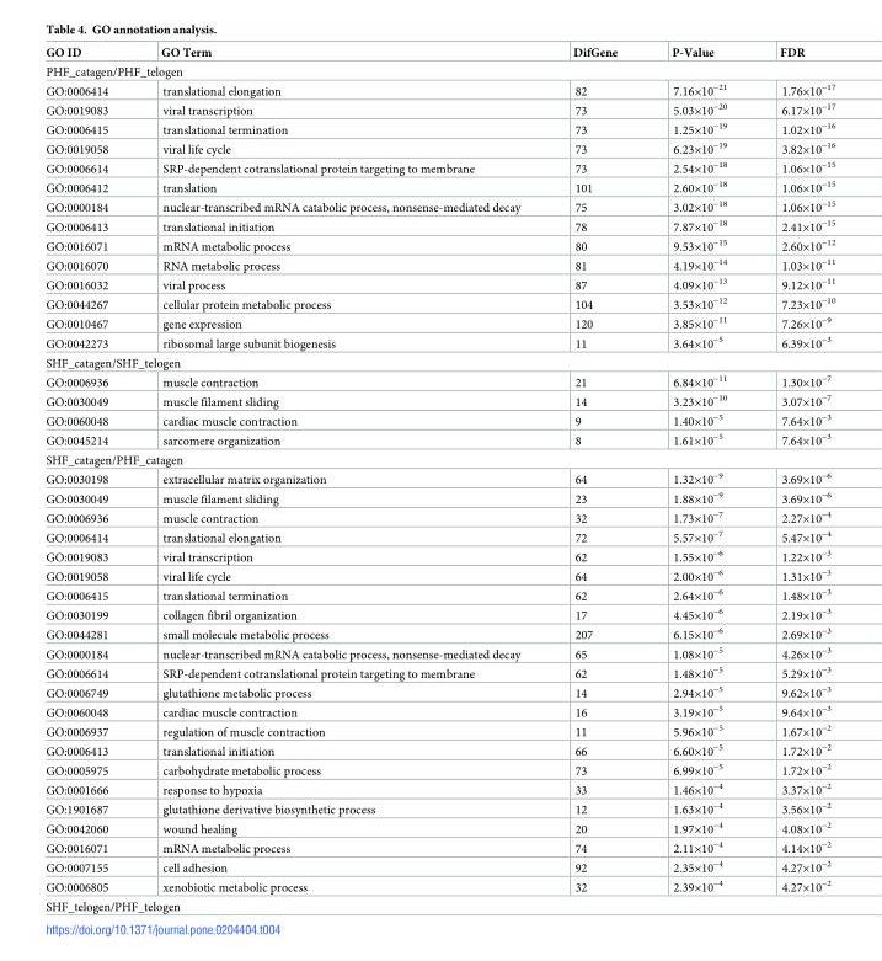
<table><thead><tr><td>GO ID</td><td>GO Term</td><td>DifGene</td><td>P-Value</td><td>FDR</td></tr></thead><tbody><tr><td colspan="5">PHF_catagen/PHF_telogen</td></tr><tr><td>GO:0006414</td><td>translational elongation</td><td>82</td><td>7.16×10<sup>−21</sup></td><td>1.76×10<sup>−17</sup></td></tr><tr><td>GO:0019083</td><td>viral transcription</td><td>73</td><td>5.03×10<sup>−20</sup></td><td>6.17×10<sup>−17</sup></td></tr><tr><td>GO:0006415</td><td>translational termination</td><td>73</td><td>1.25×10<sup>−19</sup></td><td>1.02×10<sup>−16</sup></td></tr><tr><td>GO:0019058</td><td>viral life cycle</td><td>73</td><td>6.23×10<sup>−19</sup></td><td>3.82×10<sup>−16</sup></td></tr><tr><td>GO:0006614</td><td>SRP-dependent cotranslational protein targeting to membrane</td><td>73</td><td>2.54×10<sup>−18</sup></td><td>1.06×10<sup>−15</sup></td></tr><tr><td>GO:0006412</td><td>translation</td><td>101</td><td>2.60×10<sup>−18</sup></td><td>1.06×10<sup>−15</sup></td></tr><tr><td>GO:0000184</td><td>nuclear-transcribed mRNA catabolic process, nonsense-mediated decay</td><td>75</td><td>3.02×10<sup>−18</sup></td><td>1.06×10<sup>−15</sup></td></tr><tr><td>GO:0006413</td><td>translational initiation</td><td>78</td><td>7.87×10<sup>−18</sup></td><td>2.41×10<sup>−15</sup></td></tr><tr><td>GO:0016071</td><td>mRNA metabolic process</td><td>80</td><td>9.53×10<sup>−15</sup></td><td>2.60×10<sup>−12</sup></td></tr><tr><td>GO:0016070</td><td>RNA metabolic process</td><td>81</td><td>4.19×10<sup>−14</sup></td><td>1.03×10<sup>−11</sup></td></tr><tr><td>GO:0016032</td><td>viral process</td><td>87</td><td>4.09×10<sup>−13</sup></td><td>9.12×10<sup>−11</sup></td></tr><tr><td>GO:0044267</td><td>cellular protein metabolic process</td><td>104</td><td>3.53×10<sup>−12</sup></td><td>7.23×10<sup>−10</sup></td></tr><tr><td>GO:0010467</td><td>gene expression</td><td>120</td><td>3.85×10<sup>−11</sup></td><td>7.26×10<sup>−9</sup></td></tr><tr><td>GO:0042273</td><td>ribosomal large subunit biogenesis</td><td>11</td><td>3.64×10<sup>−5</sup></td><td>6.39×10<sup>−3</sup></td></tr><tr><td colspan="5">SHF_catagen/SHF_telogen</td></tr><tr><td>GO:0006936</td><td>muscle contraction</td><td>21</td><td>6.84×10<sup>−11</sup></td><td>1.30×10<sup>−7</sup></td></tr><tr><td>GO:0030049</td><td>muscle filament sliding</td><td>14</td><td>3.23×10<sup>−10</sup></td><td>3.07×10<sup>−7</sup></td></tr><tr><td>GO:0060048</td><td>cardiac muscle contraction</td><td>9</td><td>1.40×10<sup>−5</sup></td><td>7.64×10<sup>−3</sup></td></tr><tr><td>GO:0045214</td><td>sarcomere organization</td><td>8</td><td>1.61×10<sup>−5</sup></td><td>7.64×10<sup>−3</sup></td></tr><tr><td colspan="5">SHF_catagen/PHF_catagen</td></tr><tr><td>GO:0030198</td><td>extracellular matrix organization</td><td>64</td><td>1.32×10<sup>−9</sup></td><td>3.69×10<sup>−6</sup></td></tr><tr><td>GO:0030049</td><td>muscle filament sliding</td><td>23</td><td>1.88×10<sup>−9</sup></td><td>3.69×10<sup>−6</sup></td></tr><tr><td>GO:0006936</td><td>muscle contraction</td><td>32</td><td>1.73×10<sup>−7</sup></td><td>2.27×10<sup>−4</sup></td></tr><tr><td>GO:0006414</td><td>translational elongation</td><td>72</td><td>5.57×10<sup>−7</sup></td><td>5.47×10<sup>−4</sup></td></tr><tr><td>GO:0019083</td><td>viral transcription</td><td>62</td><td>1.55×10<sup>−6</sup></td><td>1.22×10<sup>−3</sup></td></tr><tr><td>GO:0019058</td><td>viral life cycle</td><td>64</td><td>2.00×10<sup>−6</sup></td><td>1.31×10<sup>−3</sup></td></tr><tr><td>GO:0006415</td><td>translational termination</td><td>62</td><td>2.64×10<sup>−6</sup></td><td>1.48×10<sup>−3</sup></td></tr><tr><td>GO:0030199</td><td>collagen fibril organization</td><td>17</td><td>4.45×10<sup>−6</sup></td><td>2.19×10<sup>−3</sup></td></tr><tr><td>GO:0044281</td><td>small molecule metabolic process</td><td>207</td><td>6.15×10<sup>−6</sup></td><td>2.69×10<sup>−3</sup></td></tr><tr><td>GO:0000184</td><td>nuclear-transcribed mRNA catabolic process, nonsense-mediated decay</td><td>65</td><td>1.08×10<sup>−5</sup></td><td>4.26×10<sup>−3</sup></td></tr><tr><td>GO:0006614</td><td>SRP-dependent cotranslational protein targeting to membrane</td><td>62</td><td>1.48×10<sup>−5</sup></td><td>5.29×10<sup>−3</sup></td></tr><tr><td>GO:0006749</td><td>glutathione metabolic process</td><td>14</td><td>2.94×10<sup>−5</sup></td><td>9.62×10<sup>−3</sup></td></tr><tr><td>GO:0060048</td><td>cardiac muscle contraction</td><td>16</td><td>3.19×10<sup>−5</sup></td><td>9.64×10<sup>−3</sup></td></tr><tr><td>GO:0006937</td><td>regulation of muscle contraction</td><td>11</td><td>5.96×10<sup>−5</sup></td><td>1.67×10<sup>−2</sup></td></tr><tr><td>GO:0006413</td><td>translational initiation</td><td>66</td><td>6.60×10<sup>−5</sup></td><td>1.72×10<sup>−2</sup></td></tr><tr><td>GO:0005975</td><td>carbohydrate metabolic process</td><td>73</td><td>6.99×10<sup>−5</sup></td><td>1.72×10<sup>−2</sup></td></tr><tr><td>GO:0001666</td><td>response to hypoxia</td><td>33</td><td>1.46×10<sup>−4</sup></td><td>3.37×10<sup>−2</sup></td></tr><tr><td>GO:1901687</td><td>glutathione derivative biosynthetic process</td><td>12</td><td>1.63×10<sup>−4</sup></td><td>3.56×10<sup>−2</sup></td></tr><tr><td>GO:0042060</td><td>wound healing</td><td>20</td><td>1.97×10<sup>−4</sup></td><td>4.08×10<sup>−2</sup></td></tr><tr><td>GO:0016071</td><td>mRNA metabolic process</td><td>74</td><td>2.11×10<sup>−4</sup></td><td>4.14×10<sup>−2</sup></td></tr><tr><td>GO:0007155</td><td>cell adhesion</td><td>92</td><td>2.35×10<sup>−4</sup></td><td>4.27×10<sup>−2</sup></td></tr><tr><td>GO:0006805</td><td>xenobiotic metabolic process</td><td>32</td><td>2.39×10<sup>−4</sup></td><td>4.27×10<sup>−2</sup></td></tr><tr><td colspan="5">SHF_telogen/PHF_telogen</td></tr></tbody></table>